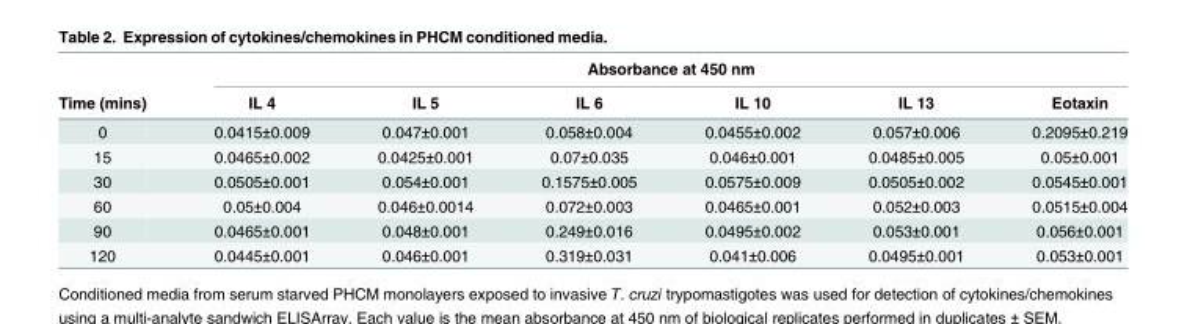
<table><thead><tr><td rowspan="2">Time (mins)</td><td colspan="6">Absorbance at 450 nm</td></tr><tr><td>IL 4</td><td>IL 5</td><td>IL 6</td><td>IL 10</td><td>IL 13</td><td>Eotaxin</td></tr></thead><tbody><tr><td>0</td><td>0.0415±0.009</td><td>0.047±0.001</td><td>0.058±0.004</td><td>0.0455±0.002</td><td>0.057±0.006</td><td>0.2095±0.219</td></tr><tr><td>15</td><td>0.0465±0.002</td><td>0.0425±0.001</td><td>0.07±0.035</td><td>0.046±0.001</td><td>0.0485±0.005</td><td>0.05±0.001</td></tr><tr><td>30</td><td>0.0505±0.001</td><td>0.054±0.001</td><td>0.1575±0.005</td><td>0.0575±0.009</td><td>0.0505±0.002</td><td>0.0545±0.001</td></tr><tr><td>60</td><td>0.05±0.004</td><td>0.046±0.0014</td><td>0.072±0.003</td><td>0.0465±0.001</td><td>0.052±0.003</td><td>0.0515±0.004</td></tr><tr><td>90</td><td>0.0465±0.001</td><td>0.048±0.001</td><td>0.249±0.016</td><td>0.0495±0.002</td><td>0.053±0.001</td><td>0.056±0.001</td></tr><tr><td>120</td><td>0.0445±0.001</td><td>0.046±0.001</td><td>0.319±0.031</td><td>0.041±0.006</td><td>0.0495±0.001</td><td>0.053±0.001</td></tr></tbody></table>